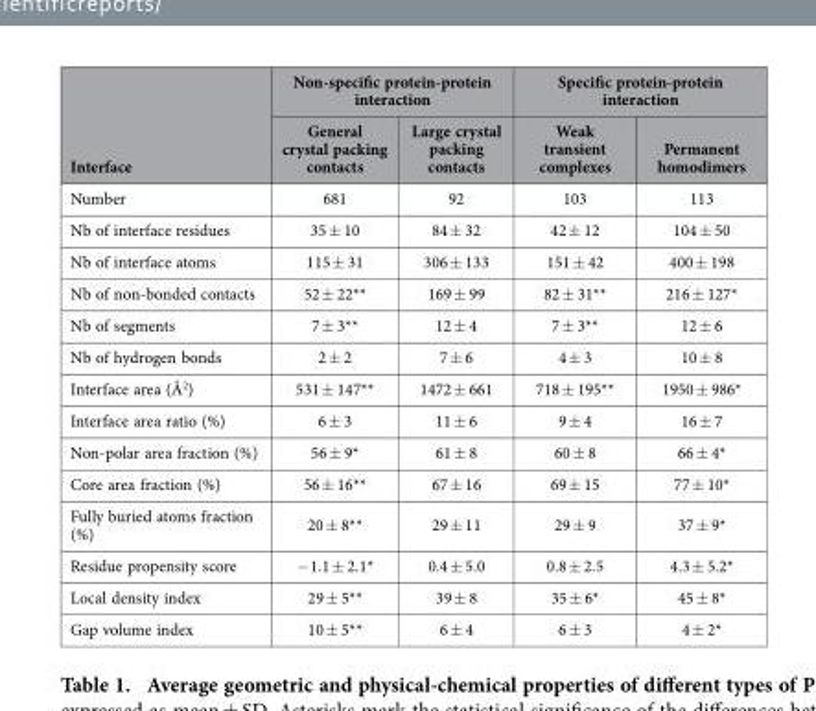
<table><thead><tr><td rowspan="2">Interface</td><td colspan="2">Non-specific protein-protein interaction</td><td colspan="2">Specific protein-protein interaction</td></tr><tr><td>General crystal packing contacts</td><td>Large crystal packing contacts</td><td>Weak transient complexes</td><td>Permanent homodimers</td></tr></thead><tbody><tr><td>Number</td><td>681</td><td>92</td><td>103</td><td>113</td></tr><tr><td>Nb of interface residues</td><td>35 ± 10</td><td>84 ± 32</td><td>42 ± 12</td><td>104 ± 50</td></tr><tr><td>Nb of interface atoms</td><td>115 ± 31</td><td>306 ± 133</td><td>151 ± 42</td><td>400 ± 198</td></tr><tr><td>Nb of non-bonded contacts</td><td>52 ± 22**</td><td>169 ± 99</td><td>82 ± 31**</td><td>216 ± 127*</td></tr><tr><td>Nb of segments</td><td>7 ± 3**</td><td>12 ± 4</td><td>7 ± 3**</td><td>12 ± 6</td></tr><tr><td>Nb of hydrogen bonds</td><td>2 ± 2</td><td>7 ± 6</td><td>4 ± 3</td><td>10 ± 8</td></tr><tr><td>Interface area (Å<sup>2</sup>)</td><td>531 ± 147**</td><td>1472 ± 661</td><td>718 ± 195**</td><td>1950 ± 986*</td></tr><tr><td>Interface area ratio (%)</td><td>6 ± 3</td><td>11 ± 6</td><td>9 ± 4</td><td>16 ± 7</td></tr><tr><td>Non-polar area fraction (%)</td><td>56 ± 9*</td><td>61 ± 8</td><td>60 ± 8</td><td>66 ± 4*</td></tr><tr><td>Core area fraction (%)</td><td>56 ± 16**</td><td>67 ± 16</td><td>69 ± 15</td><td>77 ± 10*</td></tr><tr><td>Fully buried atoms fraction (%)</td><td>20 ± 8**</td><td>29 ± 11</td><td>29 ± 9</td><td>37 ± 9*</td></tr><tr><td>Residue propensity score</td><td>− 1.1 ± 2.1*</td><td>0.4 ± 5.0</td><td>0.8 ± 2.5</td><td>4.3 ± 5.2*</td></tr><tr><td>Local density index</td><td>29 ± 5**</td><td>39 ± 8</td><td>35 ± 6*</td><td>45 ± 8*</td></tr><tr><td>Gap volume index</td><td>10 ± 5**</td><td>6 ± 4</td><td>6 ± 3</td><td>4 ± 2*</td></tr></tbody></table>